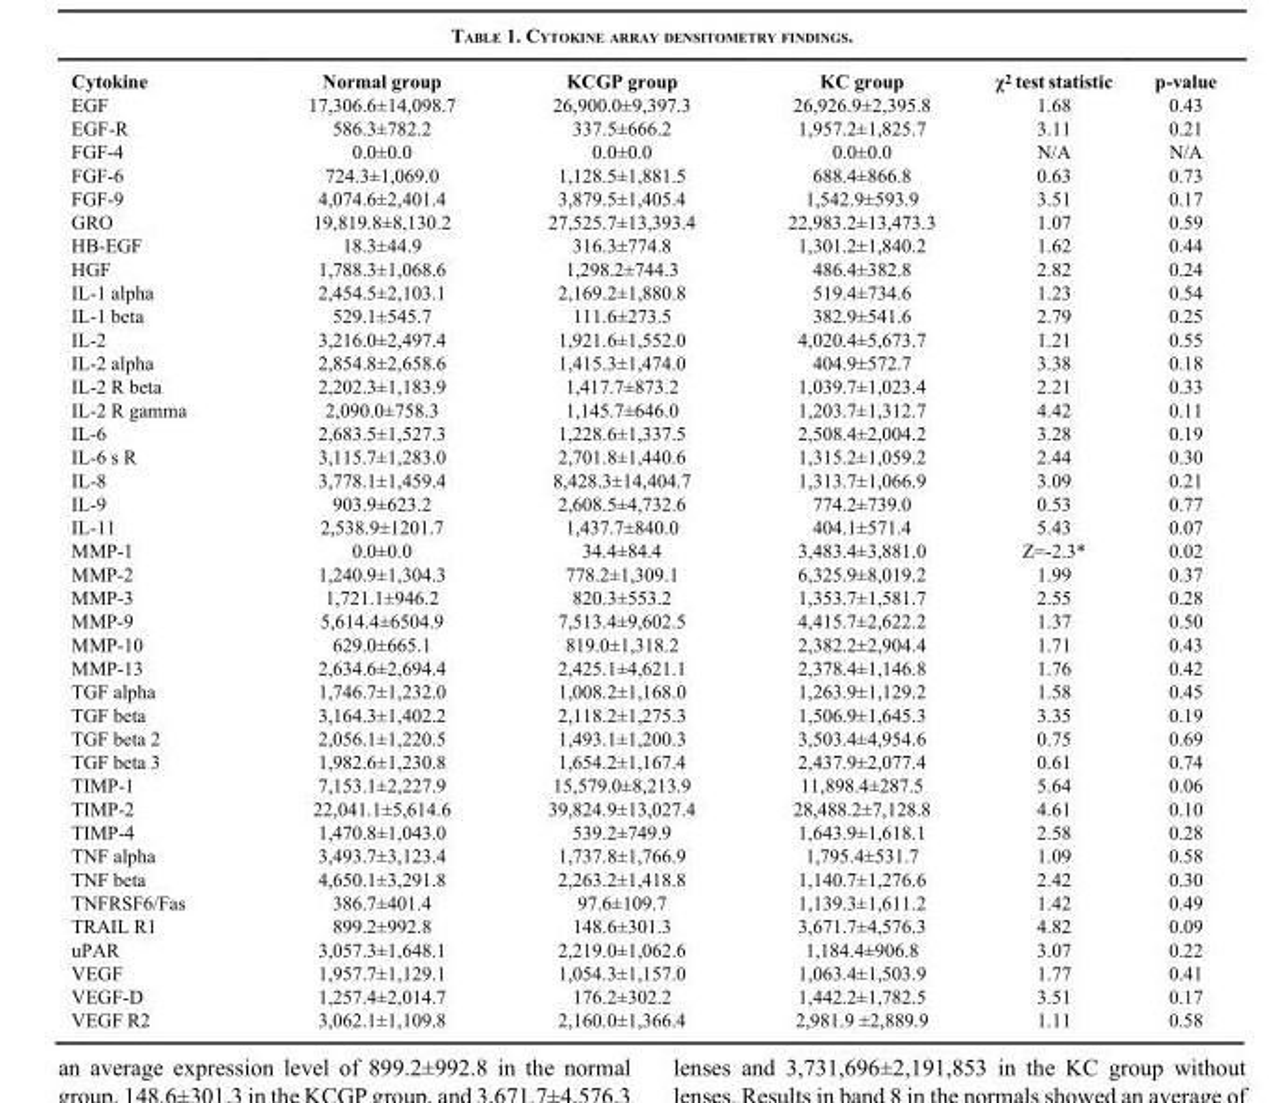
<table><thead><tr><td>Cytokine</td><td>Normal group</td><td>KCGP group</td><td>KC group</td><td>χ<sup>2</sup> test statistic</td><td>p-value</td></tr></thead><tbody><tr><td>EGF</td><td>17,306.6±14,098.7</td><td>26,900.0±9,397.3</td><td>26,926.9±2,395.8</td><td>1.68</td><td>0.43</td></tr><tr><td>EGF-R</td><td>586.3±782.2</td><td>337.5±666.2</td><td>1,957.2±1,825.7</td><td>3.11</td><td>0.21</td></tr><tr><td>FGF-4</td><td>0.0±0.0</td><td>0.0±0.0</td><td>0.0±0.0</td><td>N/A</td><td>N/A</td></tr><tr><td>FGF-6</td><td>724.3±1,069.0</td><td>1,128.5±1,881.5</td><td>688.4±866.8</td><td>0.63</td><td>0.73</td></tr><tr><td>FGF-9</td><td>4,074.6±2,401.4</td><td>3,879.5±1,405.4</td><td>1,542.9±593.9</td><td>3.51</td><td>0.17</td></tr><tr><td>GRO</td><td>19,819.8±8,130.2</td><td>27,525.7±13,393.4</td><td>22,983.2±13,473.3</td><td>1.07</td><td>0.59</td></tr><tr><td>HB-EGF</td><td>18.3±44.9</td><td>316.3±774.8</td><td>1,301.2±1,840.2</td><td>1.62</td><td>0.44</td></tr><tr><td>HGF</td><td>1,788.3±1,068.6</td><td>1,298.2±744.3</td><td>486.4±382.8</td><td>2.82</td><td>0.24</td></tr><tr><td>IL-1 alpha</td><td>2,454.5±2,103.1</td><td>2,169.2±1,880.8</td><td>519.4±734.6</td><td>1.23</td><td>0.54</td></tr><tr><td>IL-1 beta</td><td>529.1±545.7</td><td>111.6±273.5</td><td>382.9±541.6</td><td>2.79</td><td>0.25</td></tr><tr><td>IL-2</td><td>3,216.0±2,497.4</td><td>1,921.6±1,552.0</td><td>4,020.4±5,673.7</td><td>1.21</td><td>0.55</td></tr><tr><td>IL-2 alpha</td><td>2,854.8±2,658.6</td><td>1,415.3±1,474.0</td><td>404.9±572.7</td><td>3.38</td><td>0.18</td></tr><tr><td>IL-2 R beta</td><td>2,202.3±1,183.9</td><td>1,417.7±873.2</td><td>1,039.7±1,023.4</td><td>2.21</td><td>0.33</td></tr><tr><td>IL-2 R gamma</td><td>2,090.0±758.3</td><td>1,145.7±646.0</td><td>1,203.7±1,312.7</td><td>4.42</td><td>0.11</td></tr><tr><td>IL-6</td><td>2,683.5±1,527.3</td><td>1,228.6±1,337.5</td><td>2,508.4±2,004.2</td><td>3.28</td><td>0.19</td></tr><tr><td>IL-6 s R</td><td>3,115.7±1,283.0</td><td>2,701.8±1,440.6</td><td>1,315.2±1,059.2</td><td>2.44</td><td>0.30</td></tr><tr><td>IL-8</td><td>3,778.1±1,459.4</td><td>8,428.3±14,404.7</td><td>1,313.7±1,066.9</td><td>3.09</td><td>0.21</td></tr><tr><td>IL-9</td><td>903.9±623.2</td><td>2,608.5±4,732.6</td><td>774.2±739.0</td><td>0.53</td><td>0.77</td></tr><tr><td>IL-11</td><td>2,538.9±1201.7</td><td>1,437.7±840.0</td><td>404.1±571.4</td><td>5.43</td><td>0.07</td></tr><tr><td>MMP-1</td><td>0.0±0.0</td><td>34.4±84.4</td><td>3,483.4±3,881.0</td><td>Z=-2.3*</td><td>0.02</td></tr><tr><td>MMP-2</td><td>1,240.9±1,304.3</td><td>778.2±1,309.1</td><td>6,325.9±8,019.2</td><td>1.99</td><td>0.37</td></tr><tr><td>MMP-3</td><td>1,721.1±946.2</td><td>820.3±553.2</td><td>1,353.7±1,581.7</td><td>2.55</td><td>0.28</td></tr><tr><td>MMP-9</td><td>5,614.4±6504.9</td><td>7,513.4±9,602.5</td><td>4,415.7±2,622.2</td><td>1.37</td><td>0.50</td></tr><tr><td>MMP-10</td><td>629.0±665.1</td><td>819.0±1,318.2</td><td>2,382.2±2,904.4</td><td>1.71</td><td>0.43</td></tr><tr><td>MMP-13</td><td>2,634.6±2,694.4</td><td>2,425.1±4,621.1</td><td>2,378.4±1,146.8</td><td>1.76</td><td>0.42</td></tr><tr><td>TGF alpha</td><td>1,746.7±1,232.0</td><td>1,008.2±1,168.0</td><td>1,263.9±1,129.2</td><td>1.58</td><td>0.45</td></tr><tr><td>TGF beta</td><td>3,164.3±1,402.2</td><td>2,118.2±1,275.3</td><td>1,506.9±1,645.3</td><td>3.35</td><td>0.19</td></tr><tr><td>TGF beta 2</td><td>2,056.1±1,220.5</td><td>1,493.1±1,200.3</td><td>3,503.4±4,954.6</td><td>0.75</td><td>0.69</td></tr><tr><td>TGF beta 3</td><td>1,982.6±1,230.8</td><td>1,654.2±1,167.4</td><td>2,437.9±2,077.4</td><td>0.61</td><td>0.74</td></tr><tr><td>TIMP-1</td><td>7,153.1±2,227.9</td><td>15,579.0±8,213.9</td><td>11,898.4±287.5</td><td>5.64</td><td>0.06</td></tr><tr><td>TIMP-2</td><td>22,041.1±5,614.6</td><td>39,824.9±13,027.4</td><td>28,488.2±7,128.8</td><td>4.61</td><td>0.10</td></tr><tr><td>TIMP-4</td><td>1,470.8±1,043.0</td><td>539.2±749.9</td><td>1,643.9±1,618.1</td><td>2.58</td><td>0.28</td></tr><tr><td>TNF alpha</td><td>3,493.7±3,123.4</td><td>1,737.8±1,766.9</td><td>1,795.4±531.7</td><td>1.09</td><td>0.58</td></tr><tr><td>TNF beta</td><td>4,650.1±3,291.8</td><td>2,263.2±1,418.8</td><td>1,140.7±1,276.6</td><td>2.42</td><td>0.30</td></tr><tr><td>TNFRSF6/Fas</td><td>386.7±401.4</td><td>97.6±109.7</td><td>1,139.3±1,611.2</td><td>1.42</td><td>0.49</td></tr><tr><td>TRAIL R1</td><td>899.2±992.8</td><td>148.6±301.3</td><td>3,671.7±4,576.3</td><td>4.82</td><td>0.09</td></tr><tr><td>uPAR</td><td>3,057.3±1,648.1</td><td>2,219.0±1,062.6</td><td>1,184.4±906.8</td><td>3.07</td><td>0.22</td></tr><tr><td>VEGF</td><td>1,957.7±1,129.1</td><td>1,054.3±1,157.0</td><td>1,063.4±1,503.9</td><td>1.77</td><td>0.41</td></tr><tr><td>VEGF-D</td><td>1,257.4±2,014.7</td><td>176.2±302.2</td><td>1,442.2±1,782.5</td><td>3.51</td><td>0.17</td></tr><tr><td>VEGF R2</td><td>3,062.1±1,109.8</td><td>2,160.0±1,366.4</td><td>2,981.9 ±2,889.9</td><td>1.11</td><td>0.58</td></tr></tbody></table>